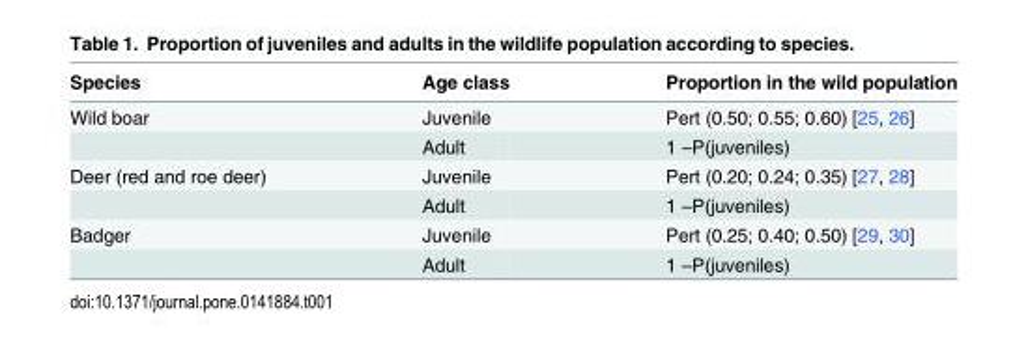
<table><thead><tr><td>Species</td><td>Age class</td><td>Proportion in the wild population</td></tr></thead><tbody><tr><td rowspan="2">Wild boar</td><td>Juvenile</td><td>Pert (0.50; 0.55; 0.60) [25, 26]</td></tr><tr><td>Adult</td><td>1 –P(juveniles)</td></tr><tr><td rowspan="2">Deer (red and roe deer)</td><td>Juvenile</td><td>Pert (0.20; 0.24; 0.35) [27, 28]</td></tr><tr><td>Adult</td><td>1 –P(juveniles)</td></tr><tr><td rowspan="2">Badger</td><td>Juvenile</td><td>Pert (0.25; 0.40; 0.50) [29, 30]</td></tr><tr><td>Adult</td><td>1 –P(juveniles)</td></tr></tbody></table>